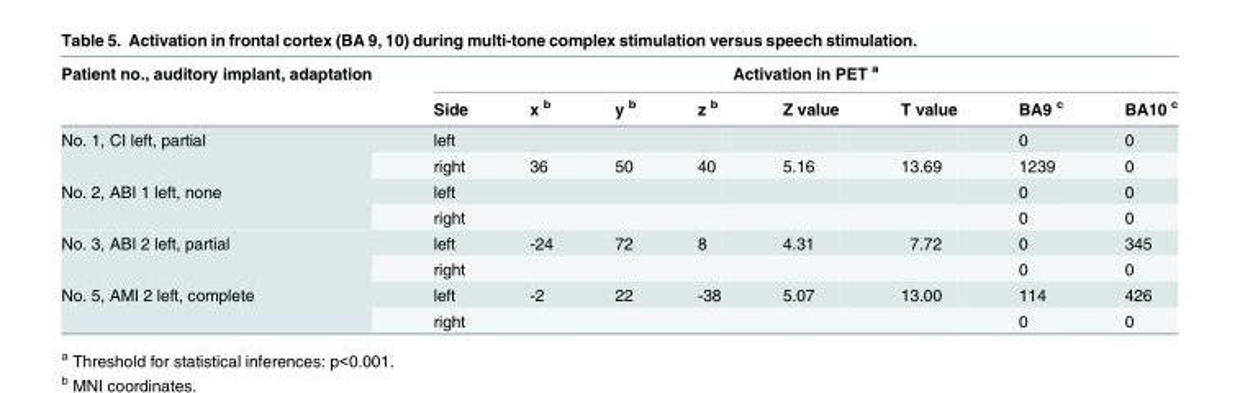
<table><thead><tr><td rowspan="2">Patient no., auditory implant, adaptation</td><td colspan="8">Activation in PET <sup>a</sup></td></tr><tr><td>Side</td><td>x <sup>b</sup></td><td>y <sup>b</sup></td><td>z <sup>b</sup></td><td>Z value</td><td>T value</td><td>BA9 <sup>c</sup></td><td>BA10 <sup>c</sup></td></tr></thead><tbody><tr><td rowspan="2">No. 1, CI left, partial</td><td>left</td><td></td><td></td><td></td><td></td><td></td><td>0</td><td>0</td></tr><tr><td>right</td><td>36</td><td>50</td><td>40</td><td>5.16</td><td>13.69</td><td>1239</td><td>0</td></tr><tr><td rowspan="2">No. 2, ABI 1 left, none</td><td>left</td><td></td><td></td><td></td><td></td><td></td><td>0</td><td>0</td></tr><tr><td>right</td><td></td><td></td><td></td><td></td><td></td><td>0</td><td>0</td></tr><tr><td rowspan="2">No. 3, ABI 2 left, partial</td><td>left</td><td>-24</td><td>72</td><td>8</td><td>4.31</td><td>7.72</td><td>0</td><td>345</td></tr><tr><td>right</td><td></td><td></td><td></td><td></td><td></td><td>0</td><td>0</td></tr><tr><td rowspan="2">No. 5, AMI 2 left, complete</td><td>left</td><td>-2</td><td>22</td><td>-38</td><td>5.07</td><td>13.00</td><td>114</td><td>426</td></tr><tr><td>right</td><td></td><td></td><td></td><td></td><td></td><td>0</td><td>0</td></tr></tbody></table>